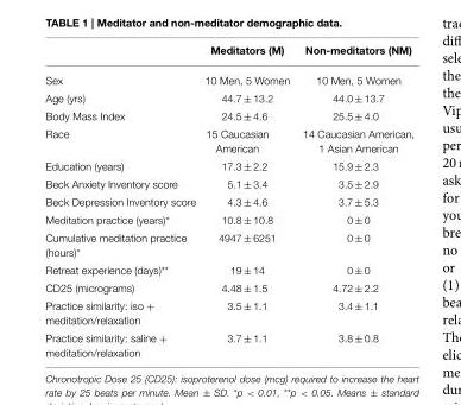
<table><thead><tr><td></td><td>Meditators (M)</td><td>Non-meditators (NM)</td></tr></thead><tbody><tr><td>Sex</td><td>10 Men, 5 Women</td><td>10 Men, 5 Women</td></tr><tr><td>Age (yrs)</td><td>44.7 ± 13.2</td><td>44.0 ± 13.7</td></tr><tr><td>Body Mass Index</td><td>24.5 ± 4.6</td><td>25.5 ± 4.0</td></tr><tr><td>Race</td><td>15 Caucasian American</td><td>14 Caucasian American, 1 Asian American</td></tr><tr><td>Education (years)</td><td>17.3 ± 2.2</td><td>15.9 ± 2.3</td></tr><tr><td>Beck Anxiety Inventory score</td><td>5.1 ± 3.4</td><td>3.5 ± 2.9</td></tr><tr><td>Beck Depression Inventory score</td><td>4.3 ± 4.6</td><td>3.7 ± 5.3</td></tr><tr><td>Meditation practice (years)*</td><td>10.8 ± 10.8</td><td>0 ± 0</td></tr><tr><td>Cumulative meditation practice (hours)*</td><td>4947 ± 6251</td><td>0 ± 0</td></tr><tr><td>Retreat experience (days)**</td><td>19 ± 14</td><td>0 ± 0</td></tr><tr><td>CD25 (micrograms)</td><td>4.48 ± 1.5</td><td>4.72 ± 2.2</td></tr><tr><td>Practice similarity: iso + meditation/relaxation</td><td>3.5 ± 1.1</td><td>3.4 ± 1.1</td></tr><tr><td>Practice similarity: saline + meditation/relaxation</td><td>3.7 ± 1.1</td><td>3.8 ± 0.8</td></tr></tbody></table>